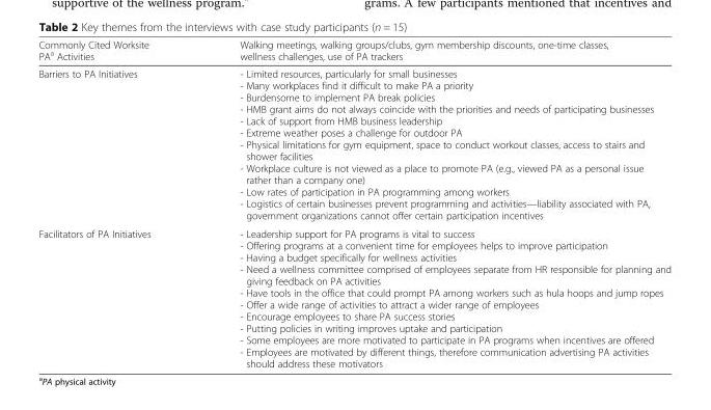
<table><thead><tr><td>Commonly Cited Worksite PA<sup>a</sup> Activities</td><td>Walking meetings, walking groups/clubs, gym membership discounts, one-time classes, wellness challenges, use of PA trackers</td></tr></thead><tbody><tr><td>Barriers to PA Initiatives</td><td>- Limited resources, particularly for small businesses - Many workplaces find it difficult to make PA a priority - Burdensome to implement PA break policies - HMB grant aims do not always coincide with the priorities and needs of participating businesses - Lack of support from HMB business leadership - Extreme weather poses a challenge for outdoor PA - Physical limitations for gym equipment, space to conduct workout classes, access to stairs and shower facilities - Workplace culture is not viewed as a place to promote PA (e.g., viewed PA as a personal issue rather than a company one) - Low rates of participation in PA programming among workers - Logistics of certain businesses prevent programming and activities—liability associated with PA, government organizations cannot offer certain participation incentives</td></tr><tr><td>Facilitators of PA Initiatives</td><td>- Leadership support for PA programs is vital to success - Offering programs at a convenient time for employees helps to improve participation - Having a budget specifically for wellness activities - Need a wellness committee comprised of employees separate from HR responsible for planning and giving feedback on PA activities - Have tools in the office that could prompt PA among workers such as hula hoops and jump ropes - Offer a wide range of activities to attract a wider range of employees - Encourage employees to share PA success stories - Putting policies in writing improves uptake and participation - Some employees are more motivated to participate in PA programs when incentives are offered - Employees are motivated by different things, therefore communication advertising PA activities should address these motivators</td></tr></tbody></table>